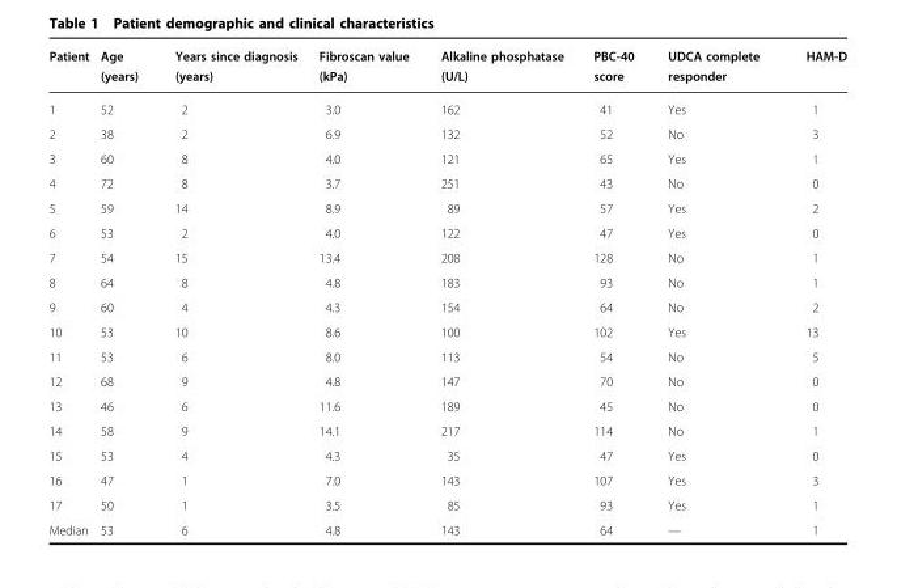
<table><thead><tr><td>Patient</td><td>Age (years)</td><td>Years since diagnosis (years)</td><td>Fibroscan value (kPa)</td><td>Alkaline phosphatase (U/L)</td><td>PBC-40 score</td><td>UDCA complete responder</td><td>HAM-D</td></tr></thead><tbody><tr><td>1</td><td>52</td><td>2</td><td>3.0</td><td>162</td><td>41</td><td>Yes</td><td>1</td></tr><tr><td>2</td><td>38</td><td>2</td><td>6.9</td><td>132</td><td>52</td><td>No</td><td>3</td></tr><tr><td>3</td><td>60</td><td>8</td><td>4.0</td><td>121</td><td>65</td><td>Yes</td><td>1</td></tr><tr><td>4</td><td>72</td><td>8</td><td>3.7</td><td>251</td><td>43</td><td>No</td><td>0</td></tr><tr><td>5</td><td>59</td><td>14</td><td>8.9</td><td>89</td><td>57</td><td>Yes</td><td>2</td></tr><tr><td>6</td><td>53</td><td>2</td><td>4.0</td><td>122</td><td>47</td><td>Yes</td><td>0</td></tr><tr><td>7</td><td>54</td><td>15</td><td>13.4</td><td>208</td><td>128</td><td>No</td><td>1</td></tr><tr><td>8</td><td>64</td><td>8</td><td>4.8</td><td>183</td><td>93</td><td>No</td><td>1</td></tr><tr><td>9</td><td>60</td><td>4</td><td>4.3</td><td>154</td><td>64</td><td>No</td><td>2</td></tr><tr><td>10</td><td>53</td><td>10</td><td>8.6</td><td>100</td><td>102</td><td>Yes</td><td>13</td></tr><tr><td>11</td><td>53</td><td>6</td><td>8.0</td><td>113</td><td>54</td><td>No</td><td>5</td></tr><tr><td>12</td><td>68</td><td>9</td><td>4.8</td><td>147</td><td>70</td><td>No</td><td>0</td></tr><tr><td>13</td><td>46</td><td>6</td><td>11.6</td><td>189</td><td>45</td><td>No</td><td>0</td></tr><tr><td>14</td><td>58</td><td>9</td><td>14.1</td><td>217</td><td>114</td><td>No</td><td>1</td></tr><tr><td>15</td><td>53</td><td>4</td><td>4.3</td><td>35</td><td>47</td><td>Yes</td><td>0</td></tr><tr><td>16</td><td>47</td><td>1</td><td>7.0</td><td>143</td><td>107</td><td>Yes</td><td>3</td></tr><tr><td>17</td><td>50</td><td>1</td><td>3.5</td><td>85</td><td>93</td><td>Yes</td><td>1</td></tr><tr><td>Median</td><td>53</td><td>6</td><td>4.8</td><td>143</td><td>64</td><td>—</td><td>1</td></tr></tbody></table>